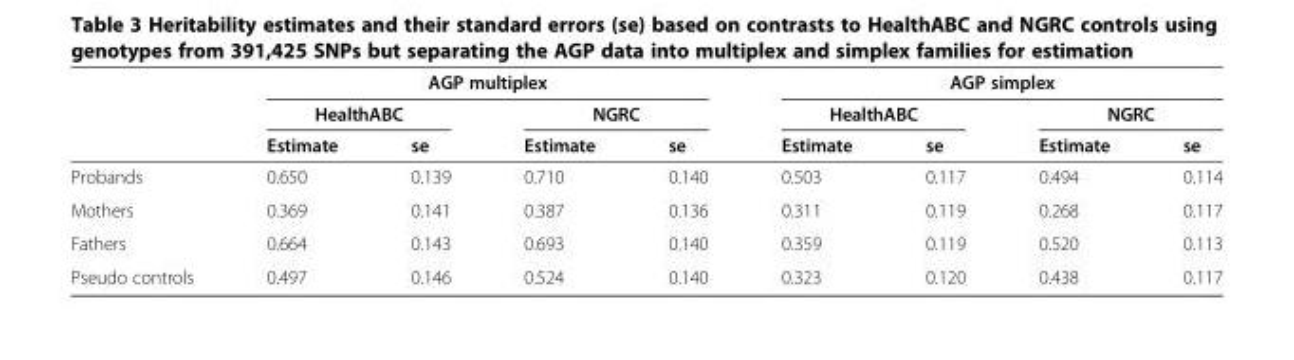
<table><thead><tr><td rowspan="3"></td><td colspan="4">AGP multiplex</td><td colspan="4">AGP simplex</td></tr><tr><td colspan="2">HealthABC</td><td colspan="2">NGRC</td><td colspan="2">HealthABC</td><td colspan="2">NGRC</td></tr><tr><td>Estimate</td><td>se</td><td>Estimate</td><td>se</td><td>Estimate</td><td>se</td><td>Estimate</td><td>se</td></tr></thead><tbody><tr><td>Probands</td><td>0.650</td><td>0.139</td><td>0.710</td><td>0.140</td><td>0.503</td><td>0.117</td><td>0.494</td><td>0.114</td></tr><tr><td>Mothers</td><td>0.369</td><td>0.141</td><td>0.387</td><td>0.136</td><td>0.311</td><td>0.119</td><td>0.268</td><td>0.117</td></tr><tr><td>Fathers</td><td>0.664</td><td>0.143</td><td>0.693</td><td>0.140</td><td>0.359</td><td>0.119</td><td>0.520</td><td>0.113</td></tr><tr><td>Pseudo controls</td><td>0.497</td><td>0.146</td><td>0.524</td><td>0.140</td><td>0.323</td><td>0.120</td><td>0.438</td><td>0.117</td></tr></tbody></table>